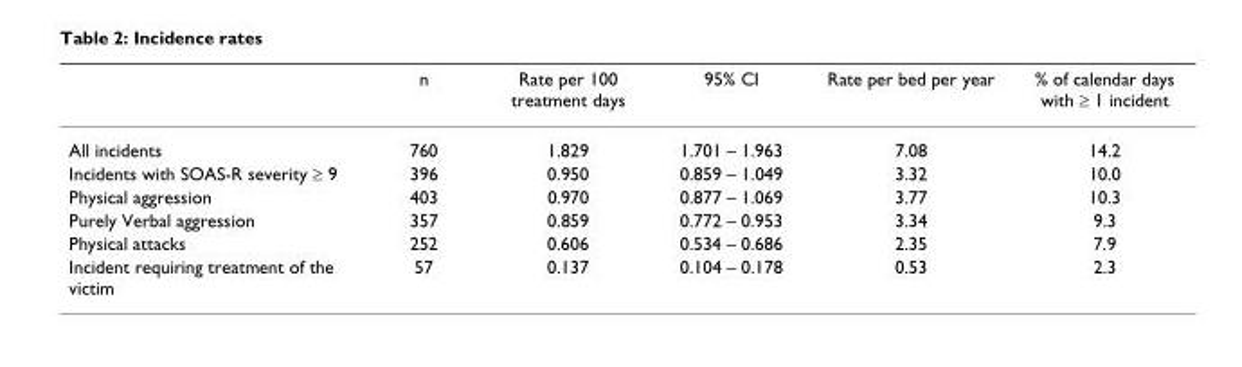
<table><thead><tr><td></td><td>n</td><td>Rate per 100 treatment days</td><td>95% CI</td><td>Rate per bed per year</td><td>% of calendar days with ≥ 1 incident</td></tr></thead><tbody><tr><td>All incidents</td><td>760</td><td>1.829</td><td>1.701 – 1.963</td><td>7.08</td><td>14.2</td></tr><tr><td>Incidents with SOAS-R severity ≥ 9</td><td>396</td><td>0.950</td><td>0.859 – 1.049</td><td>3.32</td><td>10.0</td></tr><tr><td>Physical aggression</td><td>403</td><td>0.970</td><td>0.877 – 1.069</td><td>3.77</td><td>10.3</td></tr><tr><td>Purely Verbal aggression</td><td>357</td><td>0.859</td><td>0.772 – 0.953</td><td>3.34</td><td>9.3</td></tr><tr><td>Physical attacks</td><td>252</td><td>0.606</td><td>0.534 – 0.686</td><td>2.35</td><td>7.9</td></tr><tr><td>Incident requiring treatment of the victim</td><td>57</td><td>0.137</td><td>0.104 – 0.178</td><td>0.53</td><td>2.3</td></tr></tbody></table>